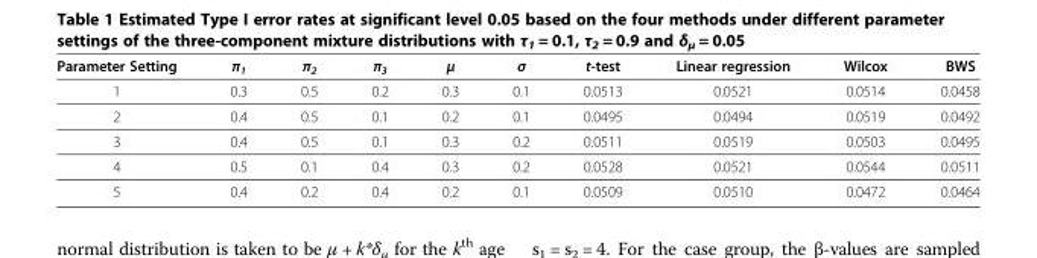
<table><thead><tr><td>Parameter Setting</td><td>π<sub>1</sub></td><td>π<sub>2</sub></td><td>π<sub>3</sub></td><td>μ</td><td>σ</td><td>t-test</td><td>Linear regression</td><td>Wilcox</td><td>BWS</td></tr></thead><tbody><tr><td>1</td><td>0.3</td><td>0.5</td><td>0.2</td><td>0.3</td><td>0.1</td><td>0.0513</td><td>0.0521</td><td>0.0514</td><td>0.0458</td></tr><tr><td>2</td><td>0.4</td><td>0.5</td><td>0.1</td><td>0.2</td><td>0.1</td><td>0.0495</td><td>0.0494</td><td>0.0519</td><td>0.0492</td></tr><tr><td>3</td><td>0.4</td><td>0.5</td><td>0.1</td><td>0.3</td><td>0.2</td><td>0.0511</td><td>0.0519</td><td>0.0503</td><td>0.0495</td></tr><tr><td>4</td><td>0.5</td><td>0.1</td><td>0.4</td><td>0.3</td><td>0.2</td><td>0.0528</td><td>0.0521</td><td>0.0544</td><td>0.0511</td></tr><tr><td>5</td><td>0.4</td><td>0.2</td><td>0.4</td><td>0.2</td><td>0.1</td><td>0.0509</td><td>0.0510</td><td>0.0472</td><td>0.0464</td></tr></tbody></table>